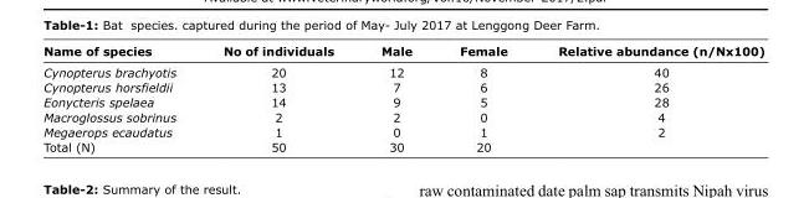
<table><thead><tr><td>Name of species</td><td>No of individuals</td><td>Male</td><td>Female</td><td>Relative abundance (n/Nx100)</td></tr></thead><tbody><tr><td>Cynopterus brachyotis</td><td>20</td><td>12</td><td>8</td><td>40</td></tr><tr><td>Cynopterus horsfieldii</td><td>13</td><td>7</td><td>6</td><td>26</td></tr><tr><td>Eonycteris spelaea</td><td>14</td><td>9</td><td>5</td><td>28</td></tr><tr><td>Macroglossus sobrinus</td><td>2</td><td>2</td><td>0</td><td>4</td></tr><tr><td>Megaerops ecaudatus</td><td>1</td><td>0</td><td>1</td><td>2</td></tr><tr><td>Total (N)</td><td>50</td><td>30</td><td>20</td><td></td></tr></tbody></table>